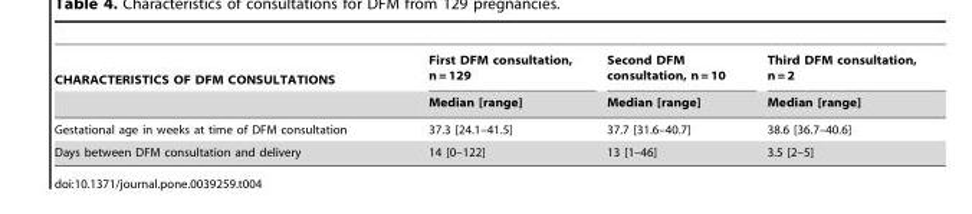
<table><thead><tr><td rowspan="2">CHARACTERISTICS OF DFM CONSULTATIONS</td><td rowspan="2">First DFM consultation, n = 129 Median [range]</td><td rowspan="2">Second DFM consultation, n = 10 Median [range]</td><td rowspan="2">Third DFM consultation, n = 2 Median [range]</td></tr><tr></tr></thead><tbody><tr><td>Gestational age in weeks at time of DFM consultation</td><td>37.3 [24.1–41.5]</td><td>37.7 [31.6–40.7]</td><td>38.6 [36.7–40.6]</td></tr><tr><td>Days between DFM consultation and delivery</td><td>14 [0–122]</td><td>13 [1–46]</td><td>3.5 [2–5]</td></tr></tbody></table>